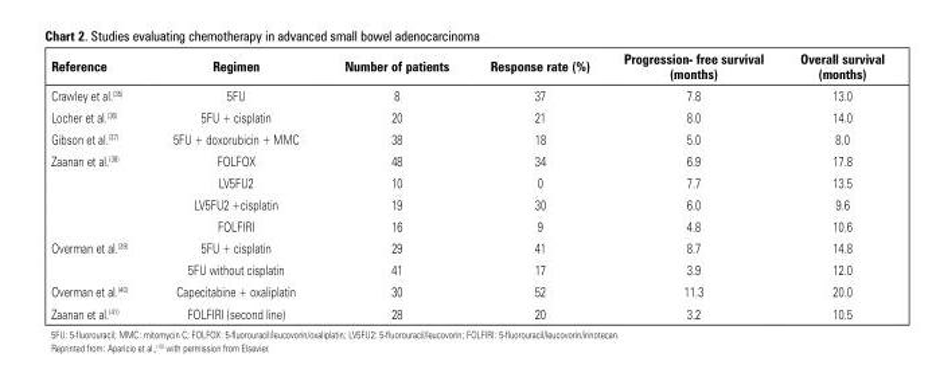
<table><thead><tr><td>Reference</td><td>Regimen</td><td>Number of patients</td><td>Response rate (%)</td><td>Progression- free survival (months)</td><td>Overall survival (months)</td></tr></thead><tbody><tr><td>Crawley et al.<sup>(35)</sup></td><td>5FU</td><td>8</td><td>37</td><td>7.8</td><td>13.0</td></tr><tr><td>Locher et al.<sup>(36)</sup></td><td>5FU + cisplatin</td><td>20</td><td>21</td><td>8.0</td><td>14.0</td></tr><tr><td>Gibson et al.<sup>(37)</sup></td><td>5FU + doxorubicin + MMC</td><td>38</td><td>18</td><td>5.0</td><td>8.0</td></tr><tr><td rowspan="4">Zaanan et al.<sup>(38)</sup></td><td>FOLFOX</td><td>48</td><td>34</td><td>6.9</td><td>17.8</td></tr><tr><td>LV5FU2</td><td>10</td><td>0</td><td>7.7</td><td>13.5</td></tr><tr><td>LV5FU2 +cisplatin</td><td>19</td><td>30</td><td>6.0</td><td>9.6</td></tr><tr><td>FOLFIRI</td><td>16</td><td>9</td><td>4.8</td><td>10.6</td></tr><tr><td rowspan="2">Overman et al.<sup>(39)</sup></td><td>5FU + cisplatin</td><td>29</td><td>41</td><td>8.7</td><td>14.8</td></tr><tr><td>5FU without cisplatin</td><td>41</td><td>17</td><td>3.9</td><td>12.0</td></tr><tr><td>Overman et al.<sup>(40)</sup></td><td>Capecitabine + oxaliplatin</td><td>30</td><td>52</td><td>11.3</td><td>20.0</td></tr><tr><td>Zaanan et al.<sup>(41)</sup></td><td>FOLFIRI (second line)</td><td>28</td><td>20</td><td>3.2</td><td>10.5</td></tr></tbody></table>